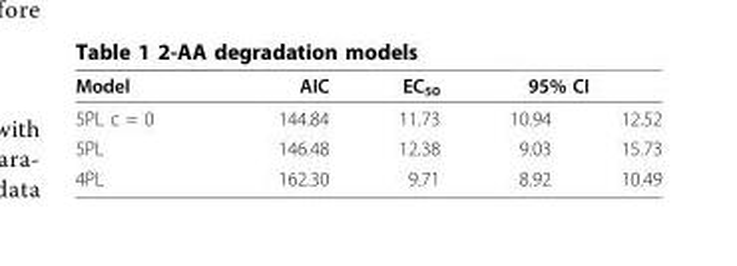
<table><thead><tr><td rowspan="2">Model 5PL c = 0</td><td rowspan="2">AIC 144.84</td><td rowspan="2">EC<sub>50</sub> 11.73</td><td colspan="2">95% CI</td></tr><tr><td>10.94</td><td>12.52</td></tr></thead><tbody><tr><td>5PL</td><td>146.48</td><td>12.38</td><td>9.03</td><td>15.73</td></tr><tr><td>4PL</td><td>162.30</td><td>9.71</td><td>8.92</td><td>10.49</td></tr></tbody></table>